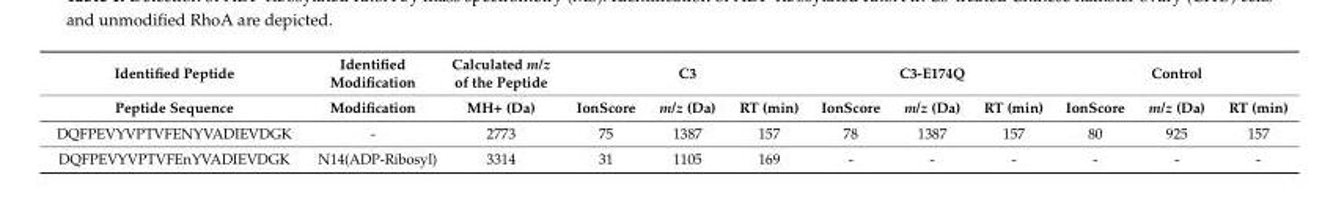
<table><thead><tr><td rowspan="2">Identified Peptide Peptide Sequence</td><td rowspan="2">Identified Modification Modification</td><td rowspan="2">Calculated m/z of the Peptide MH+ (Da)</td><td colspan="3">C3</td><td colspan="3">C3-E174Q</td><td colspan="3">Control</td></tr><tr><td>IonScore</td><td>m/z (Da)</td><td>RT (min)</td><td>IonScore</td><td>m/z (Da)</td><td>RT (min)</td><td>IonScore</td><td>m/z (Da)</td><td>RT (min)</td></tr></thead><tbody><tr><td>DQFPEVYVPTVFENYVADIEVDGK</td><td>-</td><td>2773</td><td>75</td><td>1387</td><td>157</td><td>78</td><td>1387</td><td>157</td><td>80</td><td>925</td><td>157</td></tr><tr><td>DQFPEVYVPTVFEnYVADIEVDGK</td><td>N14(ADP-Ribosyl)</td><td>3314</td><td>31</td><td>1105</td><td>169</td><td>-</td><td>-</td><td>-</td><td>-</td><td>-</td><td>-</td></tr></tbody></table>